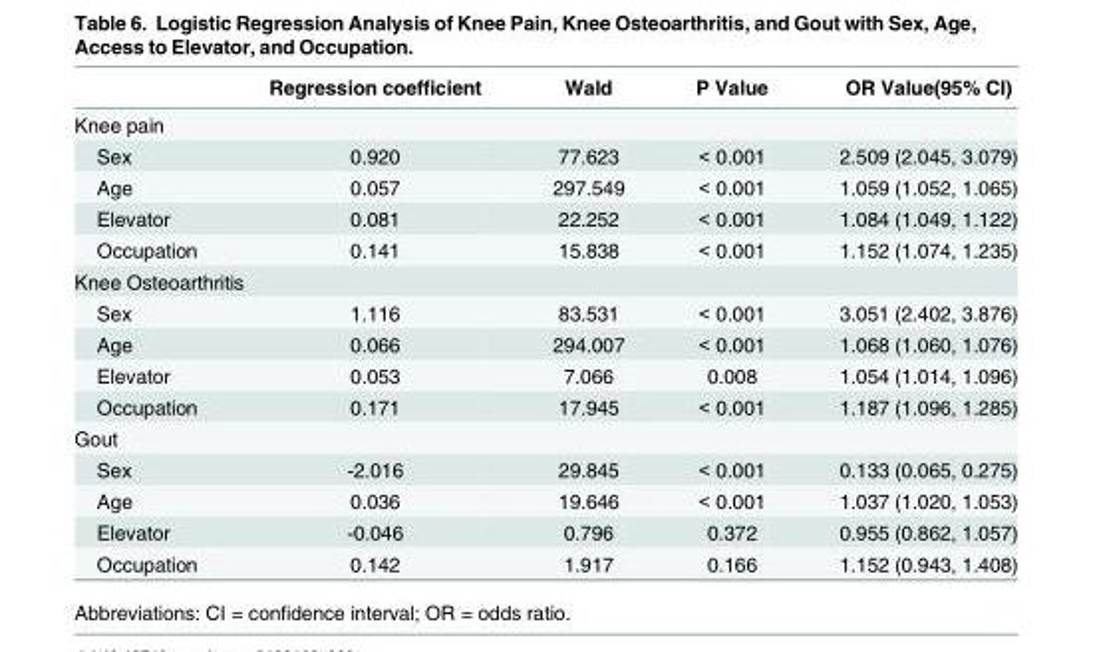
<table><thead><tr><td></td><td>Regression coefficient</td><td>Wald</td><td>P Value</td><td>OR Value(95% CI)</td></tr></thead><tbody><tr><td colspan="5">Knee pain</td></tr><tr><td>Sex</td><td>0.920</td><td>77.623</td><td>&lt; 0.001</td><td>2.509 (2.045, 3.079)</td></tr><tr><td>Age</td><td>0.057</td><td>297.549</td><td>&lt; 0.001</td><td>1.059 (1.052, 1.065)</td></tr><tr><td>Elevator</td><td>0.081</td><td>22.252</td><td>&lt; 0.001</td><td>1.084 (1.049, 1.122)</td></tr><tr><td>Occupation</td><td>0.141</td><td>15.838</td><td>&lt; 0.001</td><td>1.152 (1.074, 1.235)</td></tr><tr><td colspan="5">Knee Osteoarthritis</td></tr><tr><td>Sex</td><td>1.116</td><td>83.531</td><td>&lt; 0.001</td><td>3.051 (2.402, 3.876)</td></tr><tr><td>Age</td><td>0.066</td><td>294.007</td><td>&lt; 0.001</td><td>1.068 (1.060, 1.076)</td></tr><tr><td>Elevator</td><td>0.053</td><td>7.066</td><td>0.008</td><td>1.054 (1.014, 1.096)</td></tr><tr><td>Occupation</td><td>0.171</td><td>17.945</td><td>&lt; 0.001</td><td>1.187 (1.096, 1.285)</td></tr><tr><td colspan="5">Gout</td></tr><tr><td>Sex</td><td>-2.016</td><td>29.845</td><td>&lt; 0.001</td><td>0.133 (0.065, 0.275)</td></tr><tr><td>Age</td><td>0.036</td><td>19.646</td><td>&lt; 0.001</td><td>1.037 (1.020, 1.053)</td></tr><tr><td>Elevator</td><td>-0.046</td><td>0.796</td><td>0.372</td><td>0.955 (0.862, 1.057)</td></tr><tr><td>Occupation</td><td>0.142</td><td>1.917</td><td>0.166</td><td>1.152 (0.943, 1.408)</td></tr></tbody></table>